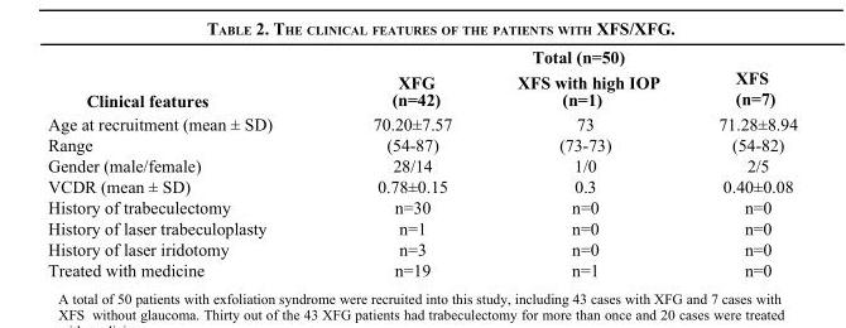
<table><thead><tr><td rowspan="2">Clinical features</td><td colspan="3">Total (n=50)</td></tr><tr><td>XFG (n=42)</td><td>XFS with high IOP (n=1)</td><td>XFS (n=7)</td></tr></thead><tbody><tr><td>Age at recruitment (mean ± SD)</td><td>70.20±7.57</td><td>73</td><td>71.28±8.94</td></tr><tr><td>Range</td><td>(54-87)</td><td>(73-73)</td><td>(54-82)</td></tr><tr><td>Gender (male/female)</td><td>28/14</td><td>1/0</td><td>2/5</td></tr><tr><td>VCDR (mean ± SD)</td><td>0.78±0.15</td><td>0.3</td><td>0.40±0.08</td></tr><tr><td>History of trabeculectomy</td><td>n=30</td><td>n=0</td><td>n=0</td></tr><tr><td>History of laser trabeculoplasty</td><td>n=1</td><td>n=0</td><td>n=0</td></tr><tr><td>History of laser iridotomy</td><td>n=3</td><td>n=0</td><td>n=0</td></tr><tr><td>Treated with medicine</td><td>n=19</td><td>n=1</td><td>n=0</td></tr></tbody></table>